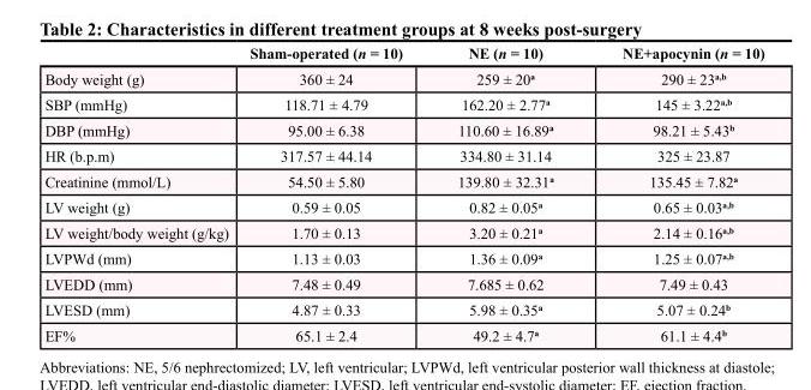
<table><thead><tr><td></td><td>Sham-operated (n = 10)</td><td>NE (n = 10)</td><td>NE+apocynin (n = 10)</td></tr></thead><tbody><tr><td>Body weight (g)</td><td>360 ± 24</td><td>259 ± 20<sup>a</sup></td><td>290 ± 23<sup>a,b</sup></td></tr><tr><td>SBP (mmHg)</td><td>118.71 ± 4.79</td><td>162.20 ± 2.77<sup>a</sup></td><td>145 ± 3.22<sup>a,b</sup></td></tr><tr><td>DBP (mmHg)</td><td>95.00 ± 6.38</td><td>110.60 ± 16.89<sup>a</sup></td><td>98.21 ± 5.43<sup>b</sup></td></tr><tr><td>HR (b.p.m)</td><td>317.57 ± 44.14</td><td>334.80 ± 31.14</td><td>325 ± 23.87</td></tr><tr><td>Creatinine (mmol/L)</td><td>54.50 ± 5.80</td><td>139.80 ± 32.31<sup>a</sup></td><td>135.45 ± 7.82<sup>a</sup></td></tr><tr><td>LV weight (g)</td><td>0.59 ± 0.05</td><td>0.82 ± 0.05<sup>a</sup></td><td>0.65 ± 0.03<sup>a,b</sup></td></tr><tr><td>LV weight/body weight (g/kg)</td><td>1.70 ± 0.13</td><td>3.20 ± 0.21<sup>a</sup></td><td>2.14 ± 0.16<sup>a,b</sup></td></tr><tr><td>LVPWd (mm)</td><td>1.13 ± 0.03</td><td>1.36 ± 0.09<sup>a</sup></td><td>1.25 ± 0.07<sup>a,b</sup></td></tr><tr><td>LVEDD (mm)</td><td>7.48 ± 0.49</td><td>7.685 ± 0.62</td><td>7.49 ± 0.43</td></tr><tr><td>LVESD (mm)</td><td>4.87 ± 0.33</td><td>5.98 ± 0.35<sup>a</sup></td><td>5.07 ± 0.24<sup>b</sup></td></tr><tr><td>EF%</td><td>65.1 ± 2.4</td><td>49.2 ± 4.7<sup>a</sup></td><td>61.1 ± 4.4<sup>b</sup></td></tr></tbody></table>